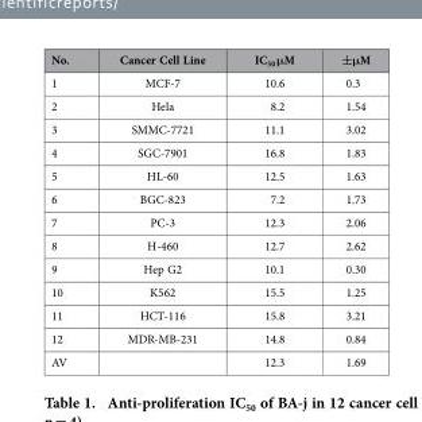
<table><thead><tr><td>No.</td><td>Cancer Cell Line</td><td>IC<sub>50</sub> μM</td><td>±μM</td></tr></thead><tbody><tr><td>1</td><td>MCF-7</td><td>10.6</td><td>0.3</td></tr><tr><td>2</td><td>Hela</td><td>8.2</td><td>1.54</td></tr><tr><td>3</td><td>SMMC-7721</td><td>11.1</td><td>3.02</td></tr><tr><td>4</td><td>SGC-7901</td><td>16.8</td><td>1.83</td></tr><tr><td>5</td><td>HL-60</td><td>12.5</td><td>1.63</td></tr><tr><td>6</td><td>BGC-823</td><td>7.2</td><td>1.73</td></tr><tr><td>7</td><td>PC-3</td><td>12.3</td><td>2.06</td></tr><tr><td>8</td><td>H-460</td><td>12.7</td><td>2.62</td></tr><tr><td>9</td><td>Hep G2</td><td>10.1</td><td>0.30</td></tr><tr><td>10</td><td>K562</td><td>15.5</td><td>1.25</td></tr><tr><td>11</td><td>HCT-116</td><td>15.8</td><td>3.21</td></tr><tr><td>12</td><td>MDR-MB-231</td><td>14.8</td><td>0.84</td></tr><tr><td>AV</td><td></td><td>12.3</td><td>1.69</td></tr></tbody></table>